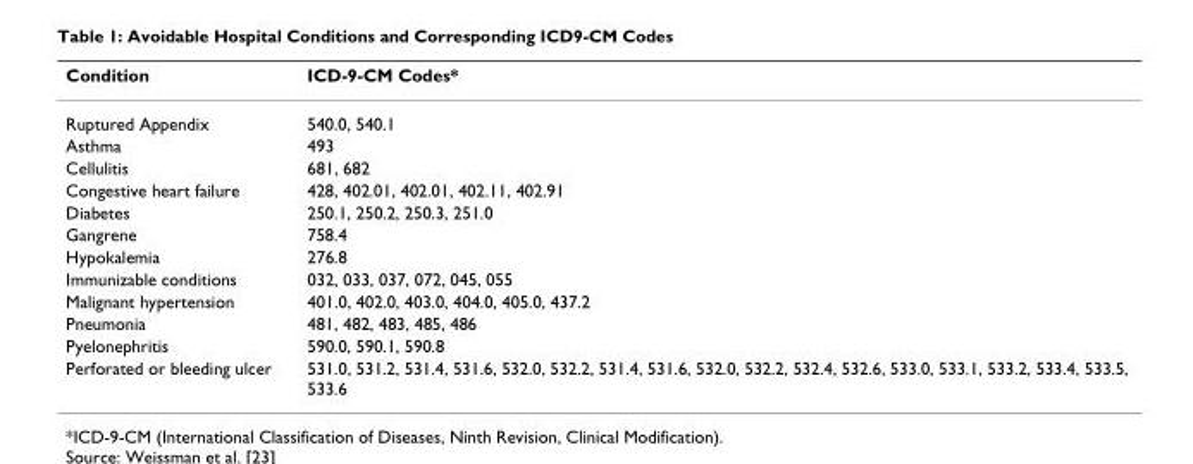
<table><thead><tr><td>Condition</td><td>ICD-9-CM Codes*</td></tr></thead><tbody><tr><td>Ruptured Appendix</td><td>540.0, 540.1</td></tr><tr><td>Asthma</td><td>493</td></tr><tr><td>Cellulitis</td><td>681, 682</td></tr><tr><td>Congestive heart failure</td><td>428, 402.01, 402.01, 402.11, 402.91</td></tr><tr><td>Diabetes</td><td>250.1, 250.2, 250.3, 251.0</td></tr><tr><td>Gangrene</td><td>758.4</td></tr><tr><td>Hypokalemia</td><td>276.8</td></tr><tr><td>Immunizable conditions</td><td>032, 033, 037, 072, 045, 055</td></tr><tr><td>Malignant hypertension</td><td>401.0, 402.0, 403.0, 404.0, 405.0, 437.2</td></tr><tr><td>Pneumonia</td><td>481, 482, 483, 485, 486</td></tr><tr><td>Pyelonephritis</td><td>590.0, 590.1, 590.8</td></tr><tr><td>Perforated or bleeding ulcer</td><td>531.0, 531.2, 531.4, 531.6, 532.0, 532.2, 531.4, 531.6, 532.0, 532.2, 532.4, 532.6, 533.0, 533.1, 533.2, 533.4, 533.5, 533.6</td></tr></tbody></table>